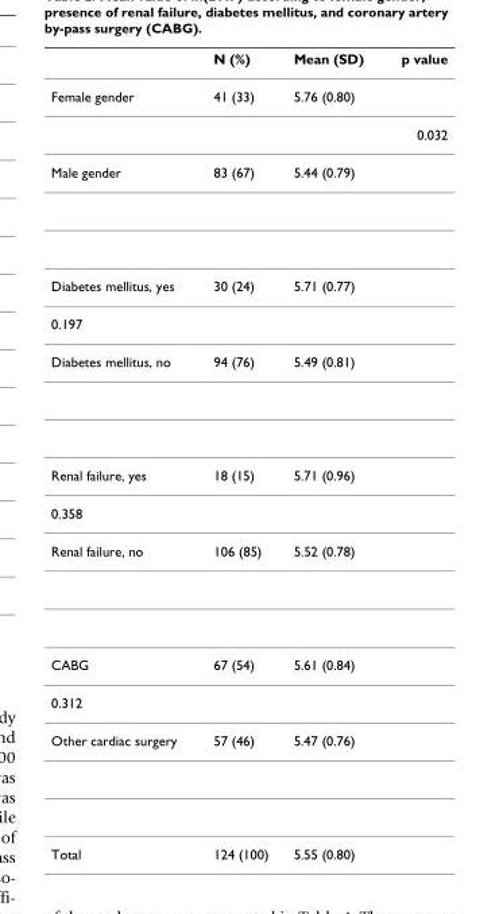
<table><thead><tr><td></td><td>N (%)</td><td>Mean (SD)</td><td>p value</td></tr></thead><tbody><tr><td rowspan="2">Female gender</td><td>41 (33)</td><td>5.76 (0.80)</td><td></td></tr><tr><td></td><td></td><td>0.032</td></tr><tr><td>Male gender</td><td>83 (67)</td><td>5.44 (0.79)</td><td></td></tr><tr><td>Diabetes mellitus, yes</td><td>30 (24)</td><td>5.71 (0.77)</td><td></td></tr><tr><td colspan="4">0.197</td></tr><tr><td>Diabetes mellitus, no</td><td>94 (76)</td><td>5.49 (0.81)</td><td></td></tr><tr><td>Renal failure, yes</td><td>18 (15)</td><td>5.71 (0.96)</td><td></td></tr><tr><td colspan="4">0.358</td></tr><tr><td>Renal failure, no</td><td>106 (85)</td><td>5.52 (0.78)</td><td></td></tr><tr><td>CABG</td><td>67 (54)</td><td>5.61 (0.84)</td><td></td></tr><tr><td colspan="4">0.312</td></tr><tr><td>Other cardiac surgery</td><td>57 (46)</td><td>5.47 (0.76)</td><td></td></tr><tr><td>Total</td><td>124 (100)</td><td>5.55 (0.80)</td><td></td></tr></tbody></table>